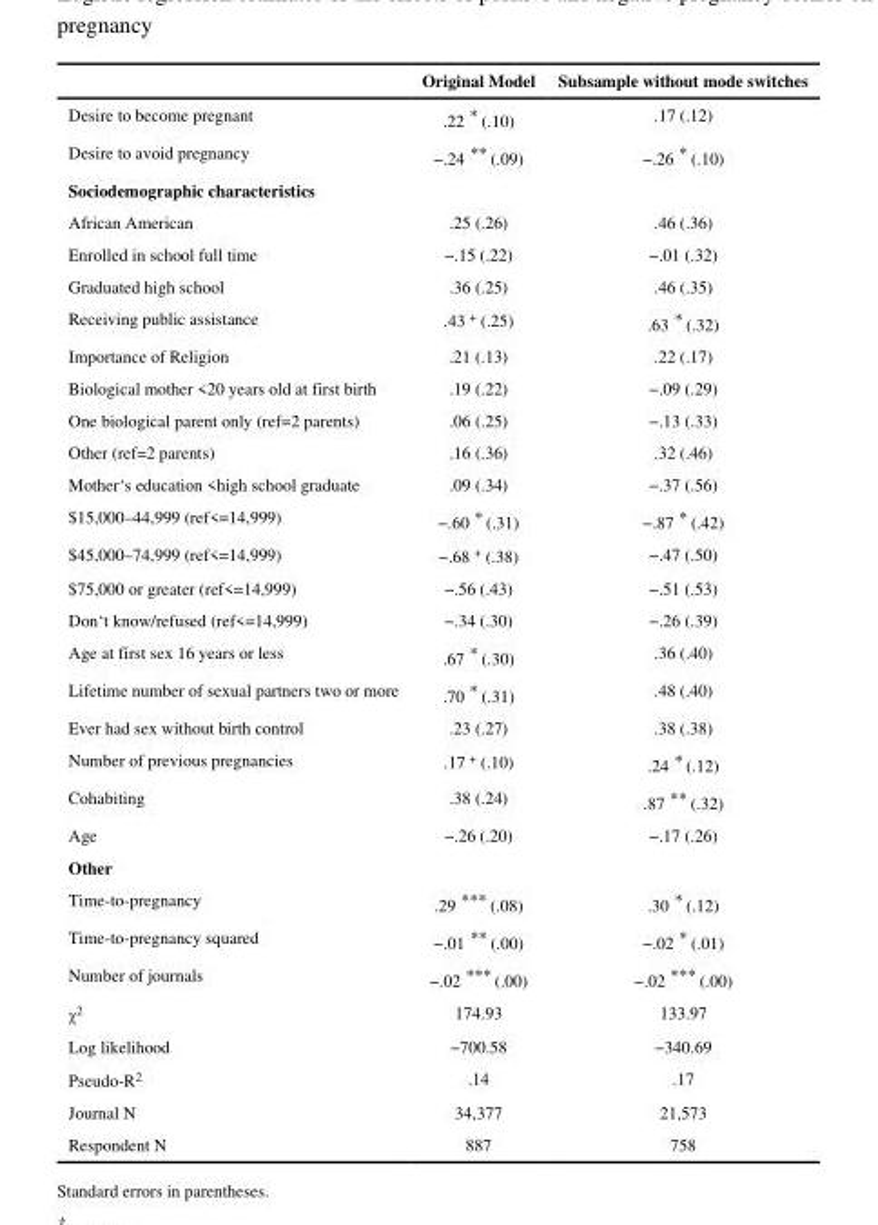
<table><thead><tr><td></td><td>Original Model</td><td>Subsample without mode switches</td></tr></thead><tbody><tr><td>Desire to become pregnant</td><td>.22 * (.10)</td><td>.17 (.12)</td></tr><tr><td>Desire to avoid pregnancy</td><td>−.24 ** (.09)</td><td>−.26 * (.10)</td></tr><tr><td colspan="3">Sociodemographic characteristics</td></tr><tr><td>African American</td><td>.25 (.26)</td><td>.46 (.36)</td></tr><tr><td>Enrolled in school full time</td><td>−.15 (.22)</td><td>−.01 (.32)</td></tr><tr><td>Graduated high school</td><td>.36 (.25)</td><td>.46 (.35)</td></tr><tr><td>Receiving public assistance</td><td>.43 <sup>+</sup> (.25)</td><td>.63 * (.32)</td></tr><tr><td>Importance of Religion</td><td>.21 (.13)</td><td>.22 (.17)</td></tr><tr><td>Biological mother &lt;20 years old at first birth</td><td>.19 (.22)</td><td>−.09 (.29)</td></tr><tr><td>One biological parent only (ref=2 parents)</td><td>.06 (.25)</td><td>−.13 (.33)</td></tr><tr><td>Other (ref=2 parents)</td><td>.16 (.36)</td><td>.32 (.46)</td></tr><tr><td>Mother‘s education &lt;high school graduate</td><td>.09 (.34)</td><td>−.37 (.56)</td></tr><tr><td>$15,000–44,999 (ref&lt;=14,999)</td><td>−.60 * (.31)</td><td>−.87 * (.42)</td></tr><tr><td>$45,000–74,999 (ref&lt;=14,999)</td><td>−.68 <sup>+</sup> (.38)</td><td>−.47 (.50)</td></tr><tr><td>$75,000 or greater (ref&lt;=14,999)</td><td>−.56 (.43)</td><td>−.51 (.53)</td></tr><tr><td>Don‘t know/refused (ref&lt;=14,999)</td><td>−.34 (.30)</td><td>−.26 (.39)</td></tr><tr><td>Age at first sex 16 years or less</td><td>.67 * (.30)</td><td>.36 (.40)</td></tr><tr><td>Lifetime number of sexual partners two or more</td><td>.70 * (.31)</td><td>.48 (.40)</td></tr><tr><td>Ever had sex without birth control</td><td>.23 (.27)</td><td>.38 (.38)</td></tr><tr><td>Number of previous pregnancies</td><td>.17 <sup>+</sup> (.10)</td><td>.24 * (.12)</td></tr><tr><td>Cohabiting</td><td>.38 (.24)</td><td>.87 ** (.32)</td></tr><tr><td>Age</td><td>−.26 (.20)</td><td>−.17 (.26)</td></tr><tr><td colspan="3">Other</td></tr><tr><td>Time-to-pregnancy</td><td>.29 *** (.08)</td><td>.30 * (.12)</td></tr><tr><td>Time-to-pregnancy squared</td><td>−.01 ** (.00)</td><td>−.02 * (.01)</td></tr><tr><td>Number of journals</td><td>−.02 *** (.00)</td><td>−.02 *** (.00)</td></tr><tr><td>χ<sup>2</sup></td><td>174.93</td><td>133.97</td></tr><tr><td>Log likelihood</td><td>−700.58</td><td>−340.69</td></tr><tr><td>Pseudo-R<sup>2</sup></td><td>.14</td><td>.17</td></tr><tr><td>Journal N</td><td>34,377</td><td>21,573</td></tr><tr><td>Respondent N</td><td>887</td><td>758</td></tr></tbody></table>